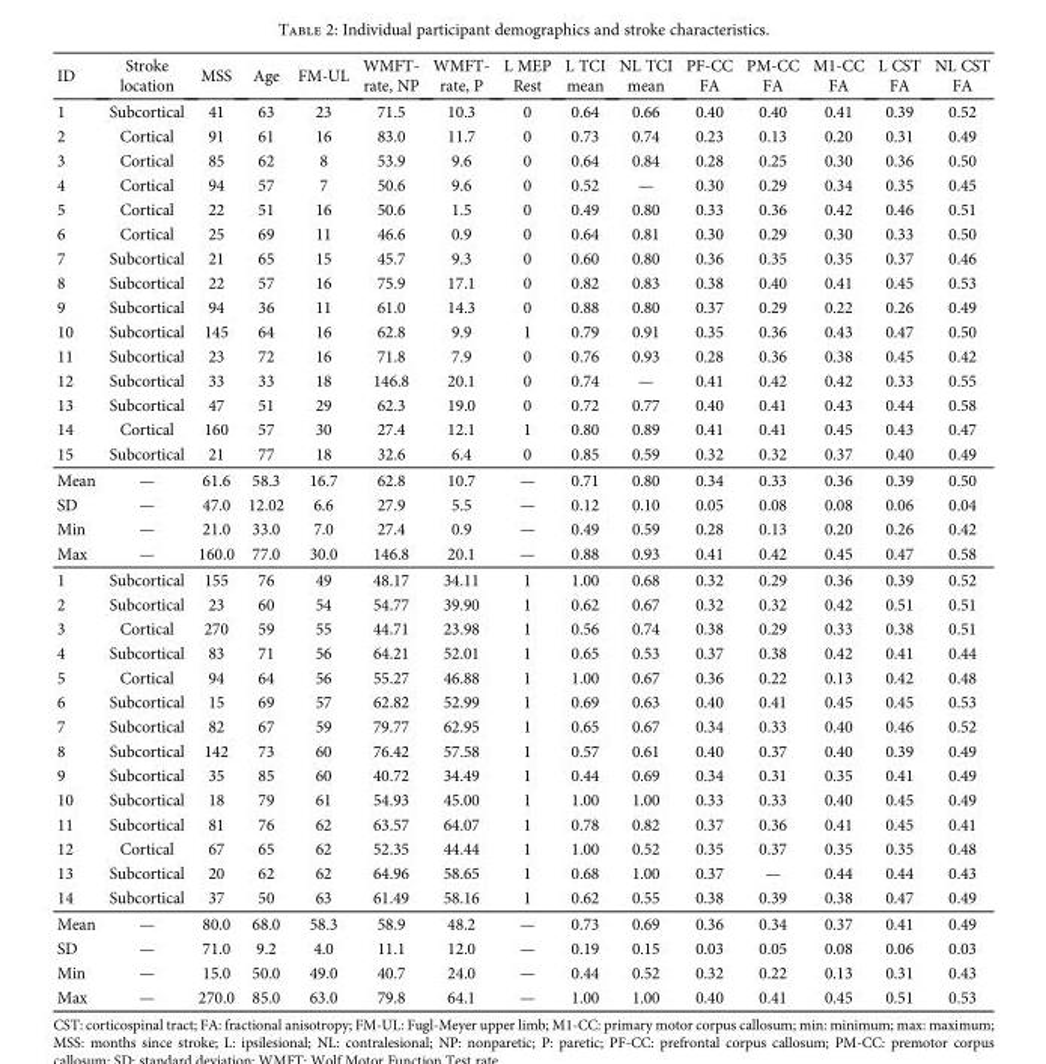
<table><thead><tr><td>ID</td><td>Stroke location</td><td>MSS</td><td>Age</td><td>FM-UL</td><td>WMFT- rate, NP</td><td>WMFT- rate, P</td><td>L MEP Rest</td><td>L TCI mean</td><td>NL TCI mean</td><td>PF-CC FA</td><td>PM-CC FA</td><td>M1-CC FA</td><td>L CST FA</td><td>NL CST FA</td></tr></thead><tbody><tr><td>1</td><td>Subcortical</td><td>41</td><td>63</td><td>23</td><td>71.5</td><td>10.3</td><td>0</td><td>0.64</td><td>0.66</td><td>0.40</td><td>0.40</td><td>0.41</td><td>0.39</td><td>0.52</td></tr><tr><td>2</td><td>Cortical</td><td>91</td><td>61</td><td>16</td><td>83.0</td><td>11.7</td><td>0</td><td>0.73</td><td>0.74</td><td>0.23</td><td>0.13</td><td>0.20</td><td>0.31</td><td>0.49</td></tr><tr><td>3</td><td>Cortical</td><td>85</td><td>62</td><td>8</td><td>53.9</td><td>9.6</td><td>0</td><td>0.64</td><td>0.84</td><td>0.28</td><td>0.25</td><td>0.30</td><td>0.36</td><td>0.50</td></tr><tr><td>4</td><td>Cortical</td><td>94</td><td>57</td><td>7</td><td>50.6</td><td>9.6</td><td>0</td><td>0.52</td><td>—</td><td>0.30</td><td>0.29</td><td>0.34</td><td>0.35</td><td>0.45</td></tr><tr><td>5</td><td>Cortical</td><td>22</td><td>51</td><td>16</td><td>50.6</td><td>1.5</td><td>0</td><td>0.49</td><td>0.80</td><td>0.33</td><td>0.36</td><td>0.42</td><td>0.46</td><td>0.51</td></tr><tr><td>6</td><td>Cortical</td><td>25</td><td>69</td><td>11</td><td>46.6</td><td>0.9</td><td>0</td><td>0.64</td><td>0.81</td><td>0.30</td><td>0.29</td><td>0.30</td><td>0.33</td><td>0.50</td></tr><tr><td>7</td><td>Subcortical</td><td>21</td><td>65</td><td>15</td><td>45.7</td><td>9.3</td><td>0</td><td>0.60</td><td>0.80</td><td>0.36</td><td>0.35</td><td>0.35</td><td>0.37</td><td>0.46</td></tr><tr><td>8</td><td>Subcortical</td><td>22</td><td>57</td><td>16</td><td>75.9</td><td>17.1</td><td>0</td><td>0.82</td><td>0.83</td><td>0.38</td><td>0.40</td><td>0.41</td><td>0.45</td><td>0.53</td></tr><tr><td>9</td><td>Subcortical</td><td>94</td><td>36</td><td>11</td><td>61.0</td><td>14.3</td><td>0</td><td>0.88</td><td>0.80</td><td>0.37</td><td>0.29</td><td>0.22</td><td>0.26</td><td>0.49</td></tr><tr><td>10</td><td>Subcortical</td><td>145</td><td>64</td><td>16</td><td>62.8</td><td>9.9</td><td>1</td><td>0.79</td><td>0.91</td><td>0.35</td><td>0.36</td><td>0.43</td><td>0.47</td><td>0.50</td></tr><tr><td>11</td><td>Subcortical</td><td>23</td><td>72</td><td>16</td><td>71.8</td><td>7.9</td><td>0</td><td>0.76</td><td>0.93</td><td>0.28</td><td>0.36</td><td>0.38</td><td>0.45</td><td>0.42</td></tr><tr><td>12</td><td>Subcortical</td><td>33</td><td>33</td><td>18</td><td>146.8</td><td>20.1</td><td>0</td><td>0.74</td><td>—</td><td>0.41</td><td>0.42</td><td>0.42</td><td>0.33</td><td>0.55</td></tr><tr><td>13</td><td>Subcortical</td><td>47</td><td>51</td><td>29</td><td>62.3</td><td>19.0</td><td>0</td><td>0.72</td><td>0.77</td><td>0.40</td><td>0.41</td><td>0.43</td><td>0.44</td><td>0.58</td></tr><tr><td>14</td><td>Cortical</td><td>160</td><td>57</td><td>30</td><td>27.4</td><td>12.1</td><td>1</td><td>0.80</td><td>0.89</td><td>0.41</td><td>0.41</td><td>0.45</td><td>0.43</td><td>0.47</td></tr><tr><td>15</td><td>Subcortical</td><td>21</td><td>77</td><td>18</td><td>32.6</td><td>6.4</td><td>0</td><td>0.85</td><td>0.59</td><td>0.32</td><td>0.32</td><td>0.37</td><td>0.40</td><td>0.49</td></tr><tr><td>Mean</td><td>—</td><td>61.6</td><td>58.3</td><td>16.7</td><td>62.8</td><td>10.7</td><td>—</td><td>0.71</td><td>0.80</td><td>0.34</td><td>0.33</td><td>0.36</td><td>0.39</td><td>0.50</td></tr><tr><td>SD</td><td>—</td><td>47.0</td><td>12.02</td><td>6.6</td><td>27.9</td><td>5.5</td><td>—</td><td>0.12</td><td>0.10</td><td>0.05</td><td>0.08</td><td>0.08</td><td>0.06</td><td>0.04</td></tr><tr><td>Min</td><td>—</td><td>21.0</td><td>33.0</td><td>7.0</td><td>27.4</td><td>0.9</td><td>—</td><td>0.49</td><td>0.59</td><td>0.28</td><td>0.13</td><td>0.20</td><td>0.26</td><td>0.42</td></tr><tr><td>Max</td><td>—</td><td>160.0</td><td>77.0</td><td>30.0</td><td>146.8</td><td>20.1</td><td>—</td><td>0.88</td><td>0.93</td><td>0.41</td><td>0.42</td><td>0.45</td><td>0.47</td><td>0.58</td></tr><tr><td>1</td><td>Subcortical</td><td>155</td><td>76</td><td>49</td><td>48.17</td><td>34.11</td><td>1</td><td>1.00</td><td>0.68</td><td>0.32</td><td>0.29</td><td>0.36</td><td>0.39</td><td>0.52</td></tr><tr><td>2</td><td>Subcortical</td><td>23</td><td>60</td><td>54</td><td>54.77</td><td>39.90</td><td>1</td><td>0.62</td><td>0.67</td><td>0.32</td><td>0.32</td><td>0.42</td><td>0.51</td><td>0.51</td></tr><tr><td>3</td><td>Cortical</td><td>270</td><td>59</td><td>55</td><td>44.71</td><td>23.98</td><td>1</td><td>0.56</td><td>0.74</td><td>0.38</td><td>0.29</td><td>0.33</td><td>0.38</td><td>0.51</td></tr><tr><td>4</td><td>Subcortical</td><td>83</td><td>71</td><td>56</td><td>64.21</td><td>52.01</td><td>1</td><td>0.65</td><td>0.53</td><td>0.37</td><td>0.38</td><td>0.42</td><td>0.41</td><td>0.44</td></tr><tr><td>5</td><td>Cortical</td><td>94</td><td>64</td><td>56</td><td>55.27</td><td>46.88</td><td>1</td><td>1.00</td><td>0.67</td><td>0.36</td><td>0.22</td><td>0.13</td><td>0.42</td><td>0.48</td></tr><tr><td>6</td><td>Subcortical</td><td>15</td><td>69</td><td>57</td><td>62.82</td><td>52.99</td><td>1</td><td>0.69</td><td>0.63</td><td>0.40</td><td>0.41</td><td>0.45</td><td>0.45</td><td>0.53</td></tr><tr><td>7</td><td>Subcortical</td><td>82</td><td>67</td><td>59</td><td>79.77</td><td>62.95</td><td>1</td><td>0.65</td><td>0.67</td><td>0.34</td><td>0.33</td><td>0.40</td><td>0.46</td><td>0.52</td></tr><tr><td>8</td><td>Subcortical</td><td>142</td><td>73</td><td>60</td><td>76.42</td><td>57.58</td><td>1</td><td>0.57</td><td>0.61</td><td>0.40</td><td>0.37</td><td>0.40</td><td>0.39</td><td>0.49</td></tr><tr><td>9</td><td>Subcortical</td><td>35</td><td>85</td><td>60</td><td>40.72</td><td>34.49</td><td>1</td><td>0.44</td><td>0.69</td><td>0.34</td><td>0.31</td><td>0.35</td><td>0.41</td><td>0.49</td></tr><tr><td>10</td><td>Subcortical</td><td>18</td><td>79</td><td>61</td><td>54.93</td><td>45.00</td><td>1</td><td>1.00</td><td>1.00</td><td>0.33</td><td>0.33</td><td>0.40</td><td>0.45</td><td>0.49</td></tr><tr><td>11</td><td>Subcortical</td><td>81</td><td>76</td><td>62</td><td>63.57</td><td>64.07</td><td>1</td><td>0.78</td><td>0.82</td><td>0.37</td><td>0.36</td><td>0.41</td><td>0.45</td><td>0.41</td></tr><tr><td>12</td><td>Cortical</td><td>67</td><td>65</td><td>62</td><td>52.35</td><td>44.44</td><td>1</td><td>1.00</td><td>0.52</td><td>0.35</td><td>0.37</td><td>0.35</td><td>0.35</td><td>0.48</td></tr><tr><td>13</td><td>Subcortical</td><td>20</td><td>62</td><td>62</td><td>64.96</td><td>58.65</td><td>1</td><td>0.68</td><td>1.00</td><td>0.37</td><td>—</td><td>0.44</td><td>0.44</td><td>0.43</td></tr><tr><td>14</td><td>Subcortical</td><td>37</td><td>50</td><td>63</td><td>61.49</td><td>58.16</td><td>1</td><td>0.62</td><td>0.55</td><td>0.38</td><td>0.39</td><td>0.38</td><td>0.47</td><td>0.49</td></tr><tr><td>Mean</td><td>—</td><td>80.0</td><td>68.0</td><td>58.3</td><td>58.9</td><td>48.2</td><td>—</td><td>0.73</td><td>0.69</td><td>0.36</td><td>0.34</td><td>0.37</td><td>0.41</td><td>0.49</td></tr><tr><td>SD</td><td>—</td><td>71.0</td><td>9.2</td><td>4.0</td><td>11.1</td><td>12.0</td><td>—</td><td>0.19</td><td>0.15</td><td>0.03</td><td>0.05</td><td>0.08</td><td>0.06</td><td>0.03</td></tr><tr><td>Min</td><td>—</td><td>15.0</td><td>50.0</td><td>49.0</td><td>40.7</td><td>24.0</td><td>—</td><td>0.44</td><td>0.52</td><td>0.32</td><td>0.22</td><td>0.13</td><td>0.31</td><td>0.43</td></tr><tr><td>Max</td><td>—</td><td>270.0</td><td>85.0</td><td>63.0</td><td>79.8</td><td>64.1</td><td>—</td><td>1.00</td><td>1.00</td><td>0.40</td><td>0.41</td><td>0.45</td><td>0.51</td><td>0.53</td></tr></tbody></table>